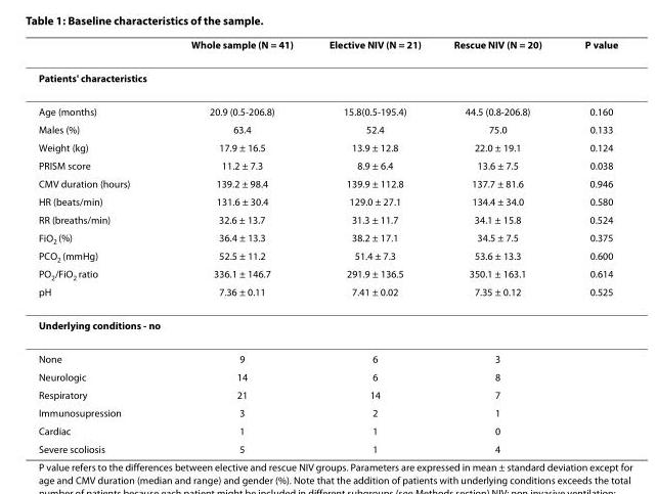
<table><thead><tr><td></td><td>Whole sample (N = 41)</td><td>Elective NIV (N = 21)</td><td>Rescue NIV (N = 20)</td><td>P value</td></tr></thead><tbody><tr><td colspan="5">Patients&#x27; characteristics</td></tr><tr><td>Age (months)</td><td>20.9 (0.5-206.8)</td><td>15.8(0.5-195.4)</td><td>44.5 (0.8-206.8)</td><td>0.160</td></tr><tr><td>Males (%)</td><td>63.4</td><td>52.4</td><td>75.0</td><td>0.133</td></tr><tr><td>Weight (kg)</td><td>17.9 ± 16.5</td><td>13.9 ± 12.8</td><td>22.0 ± 19.1</td><td>0.124</td></tr><tr><td>PRISM score</td><td>11.2 ± 7.3</td><td>8.9 ± 6.4</td><td>13.6 ± 7.5</td><td>0.038</td></tr><tr><td>CMV duration (hours)</td><td>139.2 ± 98.4</td><td>139.9 ± 112.8</td><td>137.7 ± 81.6</td><td>0.946</td></tr><tr><td>HR (beats/min)</td><td>131.6 ± 30.4</td><td>129.0 ± 27.1</td><td>134.4 ± 34.0</td><td>0.580</td></tr><tr><td>RR (breaths/min)</td><td>32.6 ± 13.7</td><td>31.3 ± 11.7</td><td>34.1 ± 15.8</td><td>0.524</td></tr><tr><td>FiO<sub>2</sub> (%)</td><td>36.4 ± 13.3</td><td>38.2 ± 17.1</td><td>34.5 ± 7.5</td><td>0.375</td></tr><tr><td>PCO<sub>2</sub> (mmHg)</td><td>52.5 ± 11.2</td><td>51.4 ± 7.3</td><td>53.6 ± 13.3</td><td>0.600</td></tr><tr><td>PO<sub>2</sub>/FiO<sub>2</sub> ratio</td><td>336.1 ± 146.7</td><td>291.9 ± 136.5</td><td>350.1 ± 163.1</td><td>0.614</td></tr><tr><td>pH</td><td>7.36 ± 0.11</td><td>7.41 ± 0.02</td><td>7.35 ± 0.12</td><td>0.525</td></tr><tr><td colspan="5">Underlying conditions - no</td></tr><tr><td>None</td><td>9</td><td>6</td><td>3</td><td></td></tr><tr><td>Neurologic</td><td>14</td><td>6</td><td>8</td><td></td></tr><tr><td>Respiratory</td><td>21</td><td>14</td><td>7</td><td></td></tr><tr><td>Immunosupression</td><td>3</td><td>2</td><td>1</td><td></td></tr><tr><td>Cardiac</td><td>1</td><td>1</td><td>0</td><td></td></tr><tr><td>Severe scoliosis</td><td>5</td><td>1</td><td>4</td><td></td></tr></tbody></table>